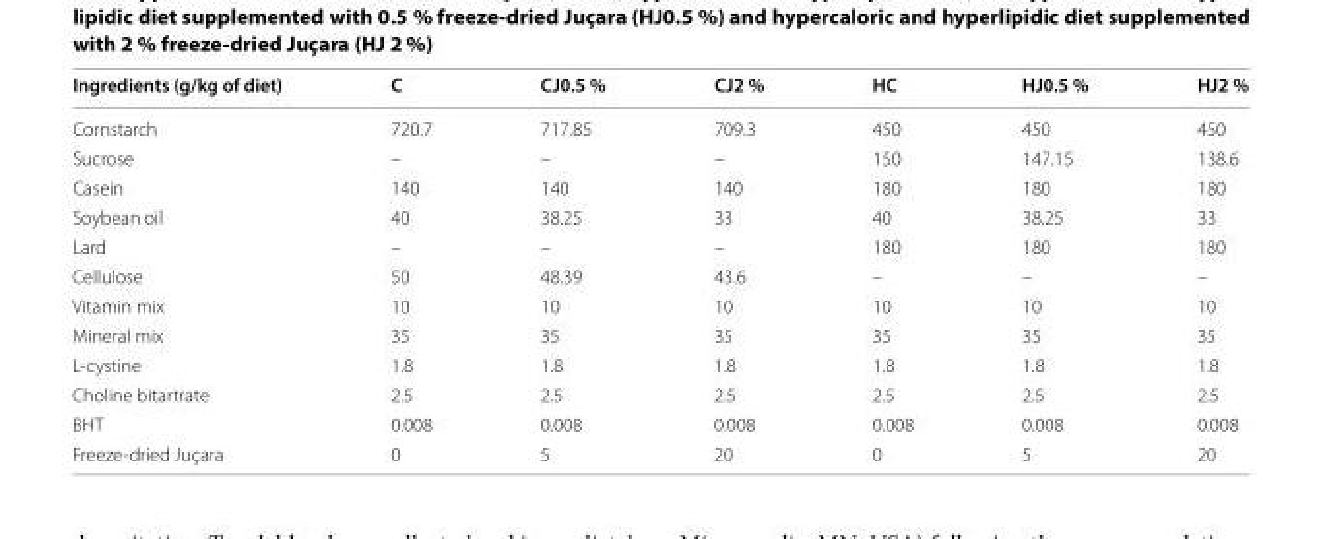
<table><thead><tr><td>Ingredients (g/kg of diet)</td><td>C</td><td>CJ0.5 %</td><td>CJ2 %</td><td>HC</td><td>HJ0.5 %</td><td>HJ2 %</td></tr></thead><tbody><tr><td>Cornstarch</td><td>720.7</td><td>717.85</td><td>709.3</td><td>450</td><td>450</td><td>450</td></tr><tr><td>Sucrose</td><td>–</td><td>–</td><td>–</td><td>150</td><td>147.15</td><td>138.6</td></tr><tr><td>Casein</td><td>140</td><td>140</td><td>140</td><td>180</td><td>180</td><td>180</td></tr><tr><td>Soybean oil</td><td>40</td><td>38.25</td><td>33</td><td>40</td><td>38.25</td><td>33</td></tr><tr><td>Lard</td><td>–</td><td>–</td><td>–</td><td>180</td><td>180</td><td>180</td></tr><tr><td>Cellulose</td><td>50</td><td>48.39</td><td>43.6</td><td>–</td><td>–</td><td>–</td></tr><tr><td>Vitamin mix</td><td>10</td><td>10</td><td>10</td><td>10</td><td>10</td><td>10</td></tr><tr><td>Mineral mix</td><td>35</td><td>35</td><td>35</td><td>35</td><td>35</td><td>35</td></tr><tr><td>L-cystine</td><td>1.8</td><td>1.8</td><td>1.8</td><td>1.8</td><td>1.8</td><td>1.8</td></tr><tr><td>Choline bitartrate</td><td>2.5</td><td>2.5</td><td>2.5</td><td>2.5</td><td>2.5</td><td>2.5</td></tr><tr><td>BHT</td><td>0.008</td><td>0.008</td><td>0.008</td><td>0.008</td><td>0.008</td><td>0.008</td></tr><tr><td>Freeze-dried Juçara</td><td>0</td><td>5</td><td>20</td><td>0</td><td>5</td><td>20</td></tr></tbody></table>